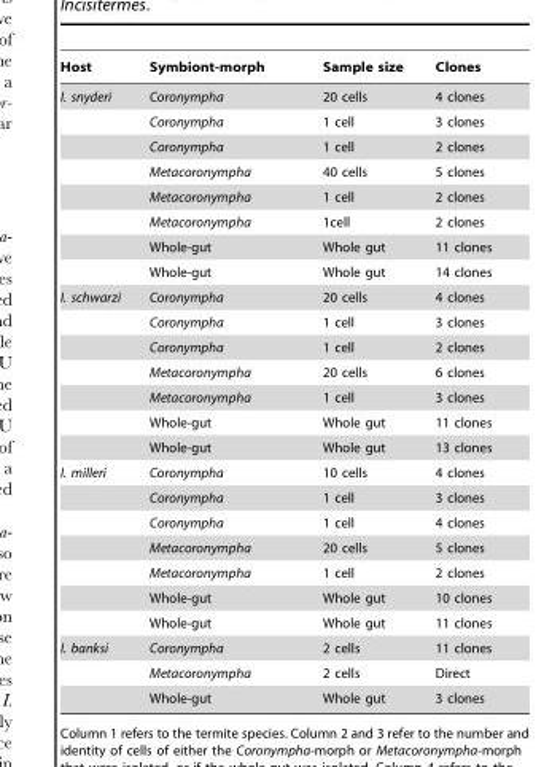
<table><thead><tr><td>Host</td><td>Symbiont-morph</td><td>Sample size</td><td>Clones</td></tr></thead><tbody><tr><td rowspan="8">I. snyderi</td><td>Coronympha</td><td>20 cells</td><td>4 clones</td></tr><tr><td>Coronympha</td><td>1 cell</td><td>3 clones</td></tr><tr><td>Coronympha</td><td>1 cell</td><td>2 clones</td></tr><tr><td>Metacoronympha</td><td>40 cells</td><td>5 clones</td></tr><tr><td>Metacoronympha</td><td>1 cell</td><td>2 clones</td></tr><tr><td>Metacoronympha</td><td>1cell</td><td>2 clones</td></tr><tr><td>Whole-gut</td><td>Whole gut</td><td>11 clones</td></tr><tr><td>Whole-gut</td><td>Whole gut</td><td>14 clones</td></tr><tr><td rowspan="7">I. schwarzi</td><td>Coronympha</td><td>20 cells</td><td>4 clones</td></tr><tr><td>Coronympha</td><td>1 cell</td><td>3 clones</td></tr><tr><td>Coronympha</td><td>1 cell</td><td>2 clones</td></tr><tr><td>Metacoronympha</td><td>20 cells</td><td>6 clones</td></tr><tr><td>Metacoronympha</td><td>1 cell</td><td>3 clones</td></tr><tr><td>Whole-gut</td><td>Whole gut</td><td>11 clones</td></tr><tr><td>Whole-gut</td><td>Whole gut</td><td>13 clones</td></tr><tr><td rowspan="7">I. milleri</td><td>Coronympha</td><td>10 cells</td><td>4 clones</td></tr><tr><td>Coronympha</td><td>1 cell</td><td>3 clones</td></tr><tr><td>Coronympha</td><td>1 cell</td><td>4 clones</td></tr><tr><td>Metacoronympha</td><td>20 cells</td><td>5 clones</td></tr><tr><td>Metacoronympha</td><td>1 cell</td><td>2 clones</td></tr><tr><td>Whole-gut</td><td>Whole gut</td><td>10 clones</td></tr><tr><td>Whole-gut</td><td>Whole gut</td><td>11 clones</td></tr><tr><td rowspan="3">I. banksi</td><td>Coronympha</td><td>2 cells</td><td>11 clones</td></tr><tr><td>Metacoronympha</td><td>2 cells</td><td>Direct</td></tr><tr><td>Whole-gut</td><td>Whole gut</td><td>3 clones</td></tr></tbody></table>